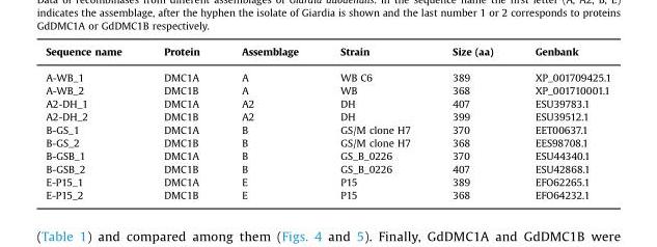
<table><tbody><tr><td>Sequence name</td><td>Protein</td><td>Assemblage</td><td>Strain</td><td>Size (aa)</td><td>Genbank</td></tr><tr><td>A-WB_1</td><td>DMC1A</td><td>A</td><td>WB C6</td><td>389</td><td>XP_001709425.1</td></tr><tr><td>A-WB_2</td><td>DMC1B</td><td>A</td><td>WB</td><td>368</td><td>XP_001710001.1</td></tr><tr><td>A2-DH_1</td><td>DMC1A</td><td>A2</td><td>DH</td><td>407</td><td>ESU39783.1</td></tr><tr><td>A2-DH_2</td><td>DMC1B</td><td>A2</td><td>DH</td><td>399</td><td>ESU39512.1</td></tr><tr><td>B-GS_1</td><td>DMC1A</td><td>B</td><td>GS/M clone H7</td><td>370</td><td>EET00637.1</td></tr><tr><td>B-GS_2</td><td>DMC1B</td><td>B</td><td>GS/M clone H7</td><td>368</td><td>EES98708.1</td></tr><tr><td>B-GSB_1</td><td>DMC1A</td><td>B</td><td>GS_B_0226</td><td>370</td><td>ESU44340.1</td></tr><tr><td>B-GSB_2</td><td>DMC1B</td><td>B</td><td>GS_B_0226</td><td>407</td><td>ESU42868.1</td></tr><tr><td>E-P15_1</td><td>DMC1A</td><td>E</td><td>P15</td><td>389</td><td>EFO62265.1</td></tr><tr><td>E-P15_2</td><td>DMC1B</td><td>E</td><td>P15</td><td>368</td><td>EFO64232.1</td></tr></tbody></table>